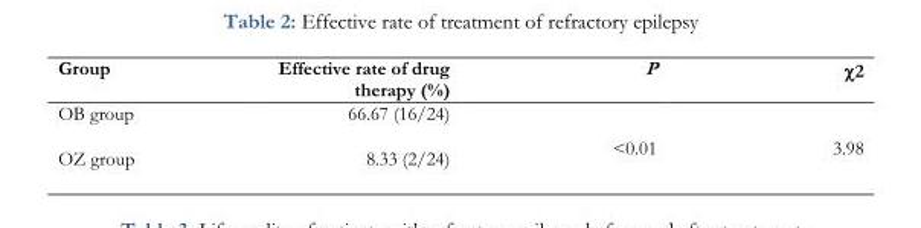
<table><thead><tr><td>Group</td><td>Effective rate of drug therapy (%)</td><td>P</td><td>χ<sup>2</sup></td></tr></thead><tbody><tr><td>OB group</td><td>66.67 (16/24)</td><td rowspan="2">&lt;0.01</td><td rowspan="2">3.98</td></tr><tr><td>OZ group</td><td>8.33 (2/24)</td></tr></tbody></table>